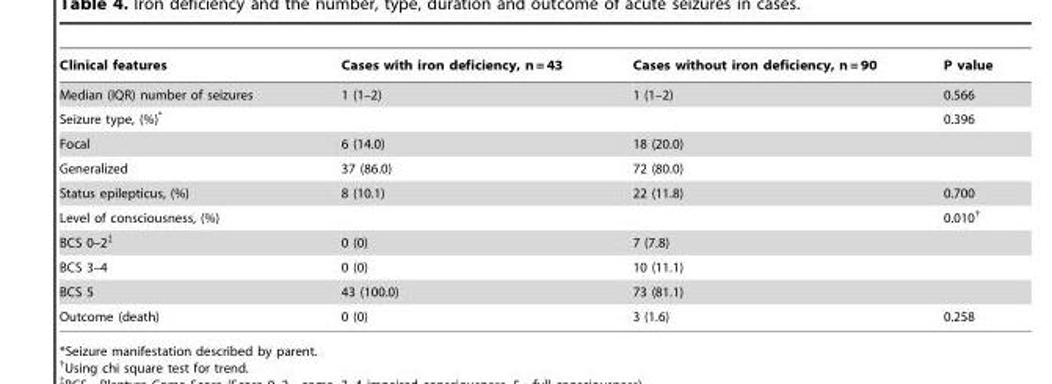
<table><thead><tr><td>Clinical features</td><td>Cases with iron deficiency, n = 43</td><td>Cases without iron deficiency, n = 90</td><td>P value</td></tr></thead><tbody><tr><td>Median (IQR) number of seizures</td><td>1 (1–2)</td><td>1 (1–2)</td><td>0.566</td></tr><tr><td>Seizure type, (%)*</td><td></td><td></td><td>0.396</td></tr><tr><td>Focal</td><td>6 (14.0)</td><td>18 (20.0)</td><td></td></tr><tr><td>Generalized</td><td>37 (86.0)</td><td>72 (80.0)</td><td></td></tr><tr><td>Status epilepticus, (%)</td><td>8 (10.1)</td><td>22 (11.8)</td><td>0.700</td></tr><tr><td>Level of consciousness, (%)</td><td></td><td></td><td>0.010†</td></tr><tr><td>BCS 0–2‡</td><td>0 (0)</td><td>7 (7.8)</td><td></td></tr><tr><td>BCS 3–4</td><td>0 (0)</td><td>10 (11.1)</td><td></td></tr><tr><td>BCS 5</td><td>43 (100.0)</td><td>73 (81.1)</td><td></td></tr><tr><td>Outcome (death)</td><td>0 (0)</td><td>3 (1.6)</td><td>0.258</td></tr></tbody></table>